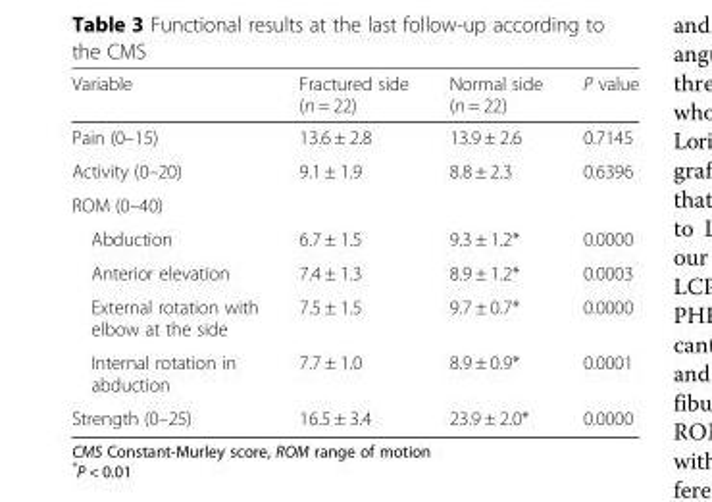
<table><thead><tr><td>Variable</td><td>Fractured side (n = 22)</td><td>Normal side (n = 22)</td><td>P value</td></tr></thead><tbody><tr><td>Pain (0–15)</td><td>13.6 ± 2.8</td><td>13.9 ± 2.6</td><td>0.7145</td></tr><tr><td>Activity (0–20)</td><td>9.1 ± 1.9</td><td>8.8 ± 2.3</td><td>0.6396</td></tr><tr><td colspan="4">ROM (0–40)</td></tr><tr><td>Abduction</td><td>6.7 ± 1.5</td><td>9.3 ± 1.2*</td><td>0.0000</td></tr><tr><td>Anterior elevation</td><td>7.4 ± 1.3</td><td>8.9 ± 1.2*</td><td>0.0003</td></tr><tr><td>External rotation with elbow at the side</td><td>7.5 ± 1.5</td><td>9.7 ± 0.7*</td><td>0.0000</td></tr><tr><td>Internal rotation in abduction</td><td>7.7 ± 1.0</td><td>8.9 ± 0.9*</td><td>0.0001</td></tr><tr><td>Strength (0–25)</td><td>16.5 ± 3.4</td><td>23.9 ± 2.0*</td><td>0.0000</td></tr></tbody></table>